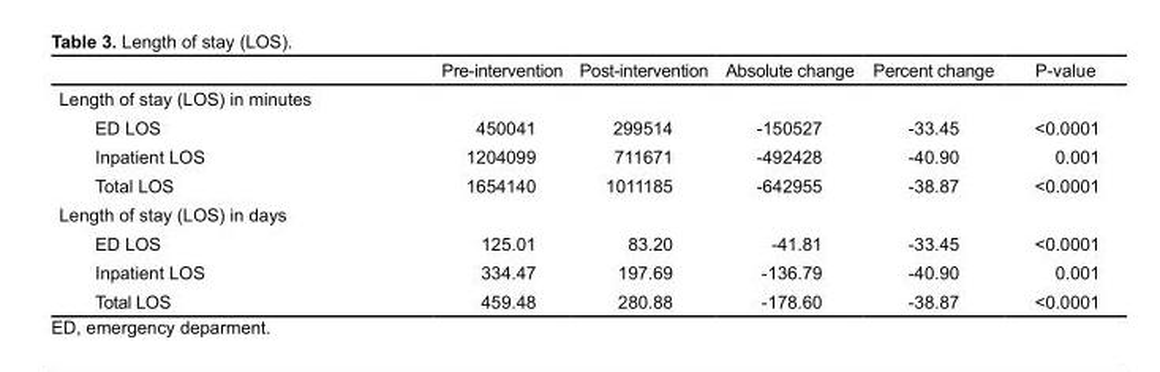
<table><thead><tr><td></td><td>Pre-intervention</td><td>Post-intervention</td><td>Absolute change</td><td>Percent change</td><td>P-value</td></tr></thead><tbody><tr><td colspan="6">Length of stay (LOS) in minutes</td></tr><tr><td>ED LOS</td><td>450041</td><td>299514</td><td>-150527</td><td>-33.45</td><td>&lt;0.0001</td></tr><tr><td>Inpatient LOS</td><td>1204099</td><td>711671</td><td>-492428</td><td>-40.90</td><td>0.001</td></tr><tr><td>Total LOS</td><td>1654140</td><td>1011185</td><td>-642955</td><td>-38.87</td><td>&lt;0.0001</td></tr><tr><td colspan="6">Length of stay (LOS) in days</td></tr><tr><td>ED LOS</td><td>125.01</td><td>83.20</td><td>-41.81</td><td>-33.45</td><td>&lt;0.0001</td></tr><tr><td>Inpatient LOS</td><td>334.47</td><td>197.69</td><td>-136.79</td><td>-40.90</td><td>0.001</td></tr><tr><td>Total LOS</td><td>459.48</td><td>280.88</td><td>-178.60</td><td>-38.87</td><td>&lt;0.0001</td></tr></tbody></table>